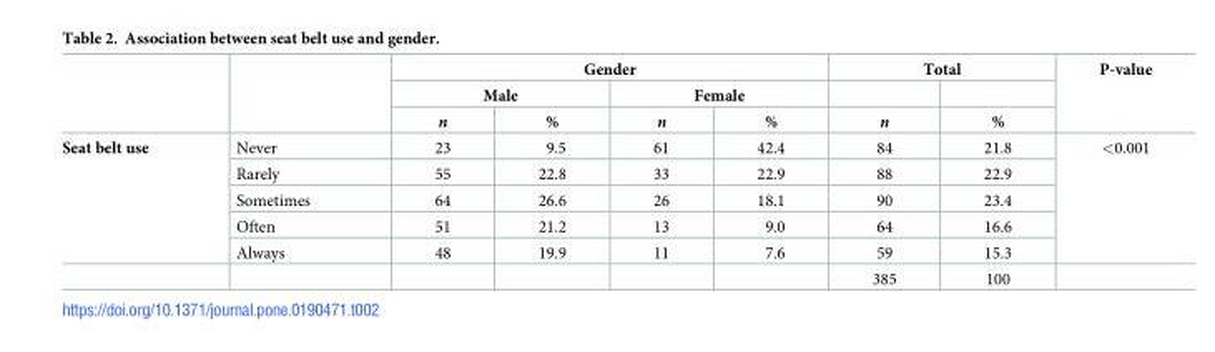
<table><thead><tr><td rowspan="3"></td><td rowspan="3"></td><td colspan="4">Gender</td><td colspan="2">Total</td><td rowspan="3">P-value</td></tr><tr><td colspan="2">Male</td><td colspan="2">Female</td><td rowspan="2">n</td><td rowspan="2">%</td></tr><tr><td>n</td><td>%</td><td>n</td><td>%</td></tr></thead><tbody><tr><td rowspan="6">Seat belt use</td><td>Never</td><td>23</td><td>9.5</td><td>61</td><td>42.4</td><td>84</td><td>21.8</td><td rowspan="5">&lt;0.001</td></tr><tr><td>Rarely</td><td>55</td><td>22.8</td><td>33</td><td>22.9</td><td>88</td><td>22.9</td></tr><tr><td>Sometimes</td><td>64</td><td>26.6</td><td>26</td><td>18.1</td><td>90</td><td>23.4</td></tr><tr><td>Often</td><td>51</td><td>21.2</td><td>13</td><td>9.0</td><td>64</td><td>16.6</td></tr><tr><td>Always</td><td>48</td><td>19.9</td><td>11</td><td>7.6</td><td>59</td><td>15.3</td></tr><tr><td></td><td></td><td></td><td></td><td></td><td>385</td><td>100</td><td></td></tr></tbody></table>